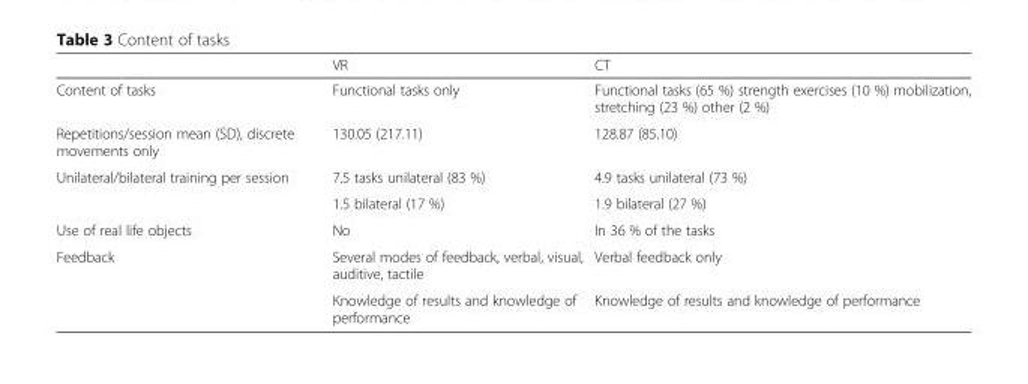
<table><thead><tr><td></td><td>VR</td><td>CT</td></tr></thead><tbody><tr><td>Content of tasks</td><td>Functional tasks only</td><td>Functional tasks (65 %) strength exercises (10 %) mobilization, stretching (23 %) other (2 %)</td></tr><tr><td>Repetitions/session mean (SD), discrete movements only</td><td>130.05 (217.11)</td><td>128.87 (85.10)</td></tr><tr><td rowspan="2">Unilateral/bilateral training per session</td><td>7.5 tasks unilateral (83 %)</td><td>4.9 tasks unilateral (73 %)</td></tr><tr><td>1.5 bilateral (17 %)</td><td>1.9 bilateral (27 %)</td></tr><tr><td>Use of real life objects</td><td>No</td><td>In 36 % of the tasks</td></tr><tr><td rowspan="2">Feedback</td><td>Several modes of feedback, verbal, visual, auditive, tactile</td><td>Verbal feedback only</td></tr><tr><td>Knowledge of results and knowledge of performance</td><td>Knowledge of results and knowledge of performance</td></tr></tbody></table>